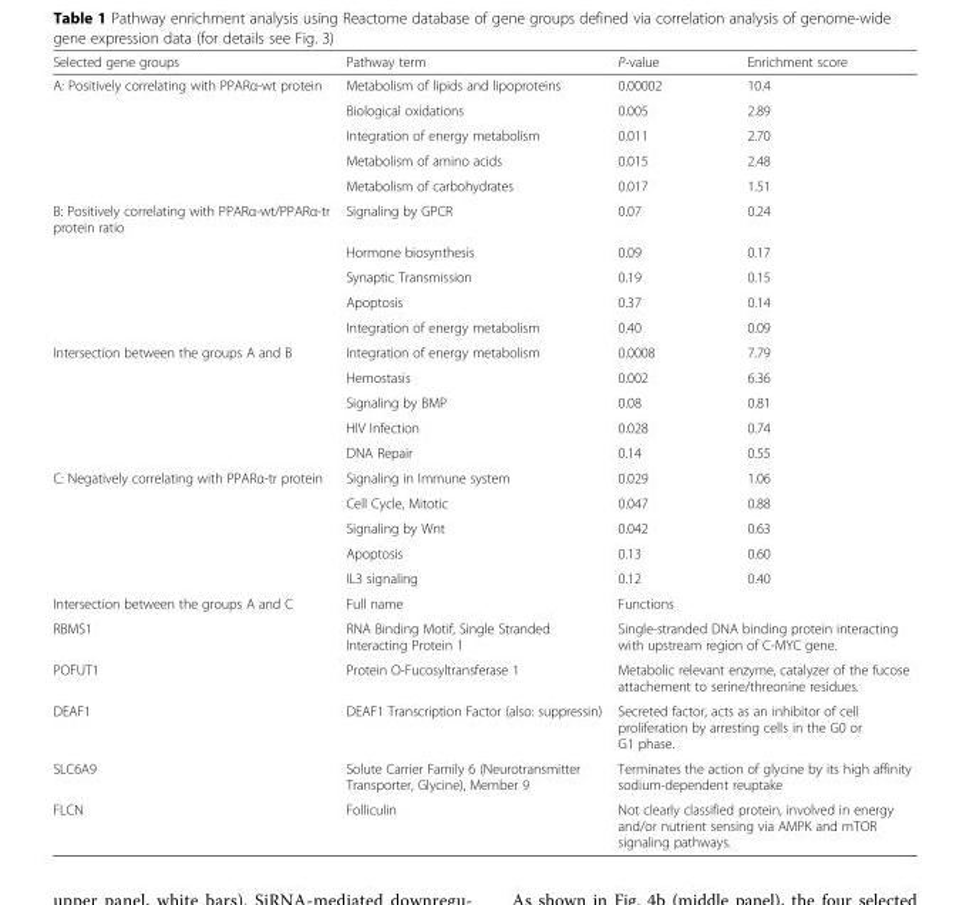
<table><thead><tr><td>Selected gene groups</td><td>Pathway term</td><td>P-value</td><td>Enrichment score</td></tr></thead><tbody><tr><td rowspan="5">A: Positively correlating with PPARα-wt protein</td><td>Metabolism of lipids and lipoproteins</td><td>0.00002</td><td>10.4</td></tr><tr><td>Biological oxidations</td><td>0.005</td><td>2.89</td></tr><tr><td>Integration of energy metabolism</td><td>0.011</td><td>2.70</td></tr><tr><td>Metabolism of amino acids</td><td>0.015</td><td>2.48</td></tr><tr><td>Metabolism of carbohydrates</td><td>0.017</td><td>1.51</td></tr><tr><td rowspan="5">B: Positively correlating with PPARα-wt/PPARα-tr protein ratio</td><td>Signaling by GPCR</td><td>0.07</td><td>0.24</td></tr><tr><td>Hormone biosynthesis</td><td>0.09</td><td>0.17</td></tr><tr><td>Synaptic Transmission</td><td>0.19</td><td>0.15</td></tr><tr><td>Apoptosis</td><td>0.37</td><td>0.14</td></tr><tr><td>Integration of energy metabolism</td><td>0.40</td><td>0.09</td></tr><tr><td rowspan="5">Intersection between the groups A and B</td><td>Integration of energy metabolism</td><td>0.0008</td><td>7.79</td></tr><tr><td>Hemostasis</td><td>0.002</td><td>6.36</td></tr><tr><td>Signaling by BMP</td><td>0.08</td><td>0.81</td></tr><tr><td>HIV Infection</td><td>0.028</td><td>0.74</td></tr><tr><td>DNA Repair</td><td>0.14</td><td>0.55</td></tr><tr><td rowspan="5">C: Negatively correlating with PPARα-tr protein</td><td>Signaling in Immune system</td><td>0.029</td><td>1.06</td></tr><tr><td>Cell Cycle, Mitotic</td><td>0.047</td><td>0.88</td></tr><tr><td>Signaling by Wnt</td><td>0.042</td><td>0.63</td></tr><tr><td>Apoptosis</td><td>0.13</td><td>0.60</td></tr><tr><td>IL3 signaling</td><td>0.12</td><td>0.40</td></tr><tr><td>Intersection between the groups A and C</td><td>Full name</td><td colspan="2">Functions</td></tr><tr><td>RBMS1</td><td>RNA Binding Motif, Single Stranded Interacting Protein 1</td><td colspan="2">Single-stranded DNA binding protein interacting with upstream region of C-MYC gene.</td></tr><tr><td>POFUT1</td><td>Protein O-Fucosyltransferase 1</td><td colspan="2">Metabolic relevant enzyme, catalyzer of the fucose attachement to serine/threonine residues.</td></tr><tr><td>DEAF1</td><td>DEAF1 Transcription Factor (also: suppressin)</td><td colspan="2">Secreted factor, acts as an inhibitor of cell proliferation by arresting cells in the G0 or G1 phase.</td></tr><tr><td>SLC6A9</td><td>Solute Carrier Family 6 (Neurotransmitter Transporter, Glycine), Member 9</td><td colspan="2">Terminates the action of glycine by its high affinity sodium-dependent reuptake</td></tr><tr><td>FLCN</td><td>Folliculin</td><td colspan="2">Not clearly classified protein, involved in energy and/or nutrient sensing via AMPK and mTOR signaling pathways.</td></tr></tbody></table>